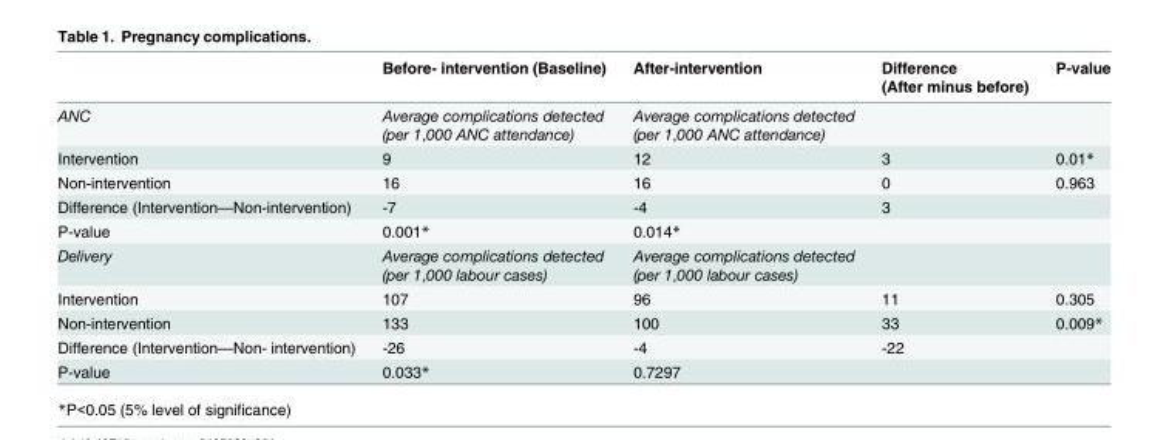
<table><thead><tr><td></td><td>Before- intervention (Baseline)</td><td>After-intervention</td><td>Difference (After minus before)</td><td>P-value</td></tr></thead><tbody><tr><td>ANC</td><td>Average complications detected (per 1,000 ANC attendance)</td><td>Average complications detected (per 1,000 ANC attendance)</td><td></td><td></td></tr><tr><td>Intervention</td><td>9</td><td>12</td><td>3</td><td>0.01*</td></tr><tr><td>Non-intervention</td><td>16</td><td>16</td><td>0</td><td>0.963</td></tr><tr><td>Difference (Intervention—Non-intervention)</td><td>-7</td><td>-4</td><td>3</td><td></td></tr><tr><td>P-value</td><td>0.001*</td><td>0.014*</td><td></td><td></td></tr><tr><td>Delivery</td><td>Average complications detected (per 1,000 labour cases)</td><td>Average complications detected (per 1,000 labour cases)</td><td></td><td></td></tr><tr><td>Intervention</td><td>107</td><td>96</td><td>11</td><td>0.305</td></tr><tr><td>Non-intervention</td><td>133</td><td>100</td><td>33</td><td>0.009*</td></tr><tr><td>Difference (Intervention—Non- intervention)</td><td>-26</td><td>-4</td><td>-22</td><td></td></tr><tr><td>P-value</td><td>0.033*</td><td>0.7297</td><td></td><td></td></tr></tbody></table>